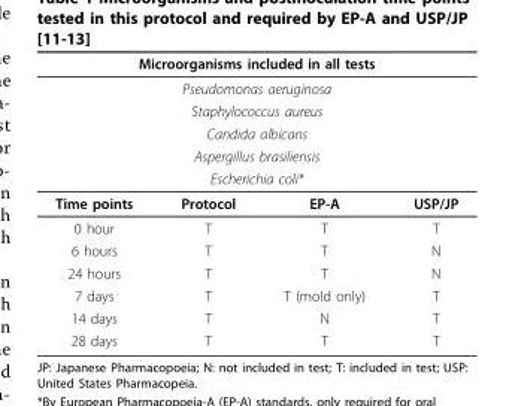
<table><thead><tr><td colspan="4">Microorganisms included in all tests</td></tr></thead><tbody><tr><td colspan="4">Pseudomonas aeruginosa</td></tr><tr><td colspan="4">Staphylococcus aureus</td></tr><tr><td colspan="4">Candida albicans</td></tr><tr><td colspan="4">Aspergillus brasiliensis</td></tr><tr><td colspan="4">Escherichia coli*</td></tr><tr><td>Time points</td><td>Protocol</td><td>EP-A</td><td>USP/JP</td></tr><tr><td>0 hour</td><td>T</td><td>T</td><td>T</td></tr><tr><td>6 hours</td><td>T</td><td>T</td><td>N</td></tr><tr><td>24 hours</td><td>T</td><td>T</td><td>N</td></tr><tr><td>7 days</td><td>T</td><td>T (mold only)</td><td>T</td></tr><tr><td>14 days</td><td>T</td><td>N</td><td>T</td></tr><tr><td>28 days</td><td>T</td><td>T</td><td>T</td></tr></tbody></table>